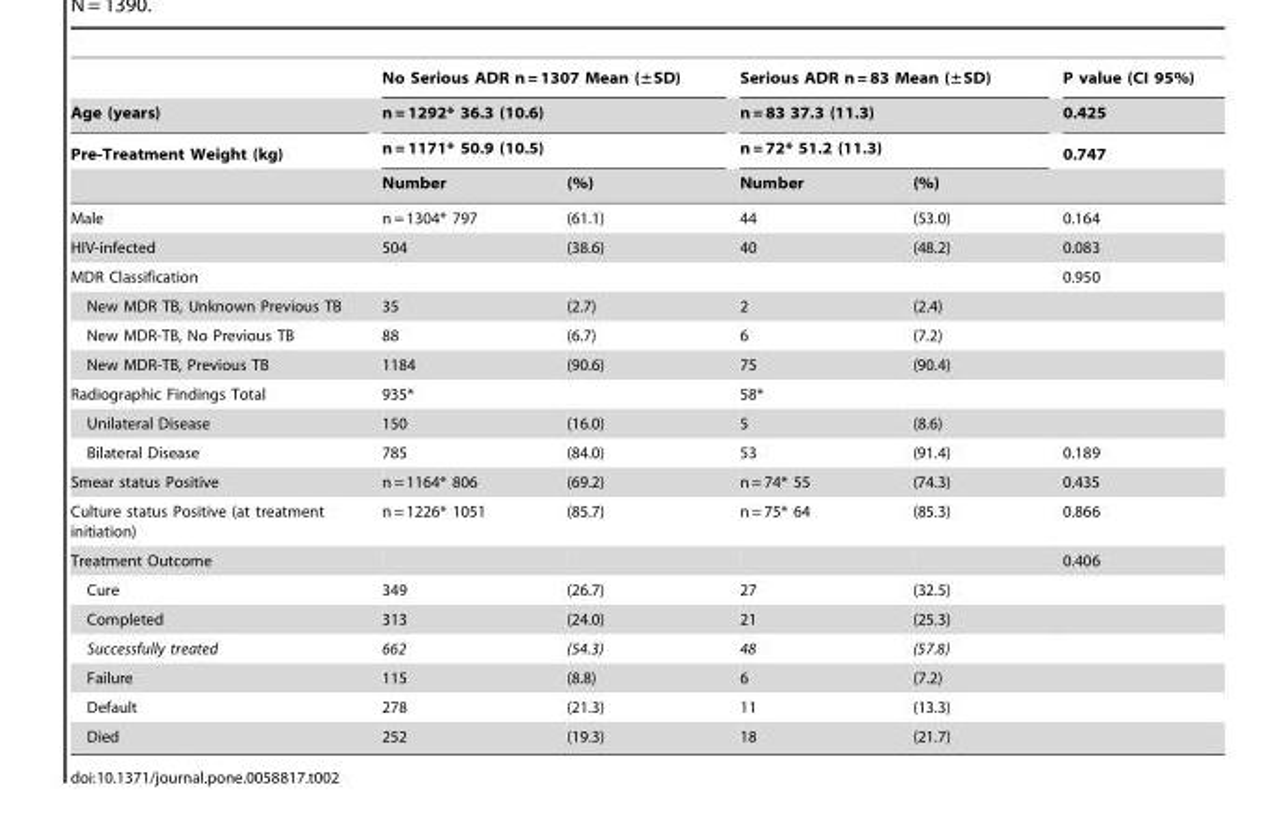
<table><thead><tr><td rowspan="4">Age (years) Pre-Treatment Weight (kg)</td><td rowspan="3" colspan="2">No Serious ADR n = 1307 Mean (±SD) n = 1292* 36.3 (10.6) n = 1171* 50.9 (10.5)</td><td rowspan="3" colspan="2">Serious ADR n = 83 Mean (±SD) n = 83 37.3 (11.3) n = 72* 51.2 (11.3)</td><td rowspan="4">P value (CI 95%) 0.425 0.747</td></tr><tr></tr><tr></tr><tr><td>Number</td><td>(%)</td><td>Number</td><td>(%)</td></tr></thead><tbody><tr><td>Male</td><td>n = 1304* 797</td><td>(61.1)</td><td>44</td><td>(53.0)</td><td>0.164</td></tr><tr><td>HIV-infected</td><td>504</td><td>(38.6)</td><td>40</td><td>(48.2)</td><td>0.083</td></tr><tr><td>MDR Classification</td><td></td><td></td><td></td><td></td><td>0.950</td></tr><tr><td>New MDR TB, Unknown Previous TB</td><td>35</td><td>(2.7)</td><td>2</td><td>(2.4)</td><td></td></tr><tr><td>New MDR-TB, No Previous TB</td><td>88</td><td>(6.7)</td><td>6</td><td>(7.2)</td><td></td></tr><tr><td>New MDR-TB, Previous TB</td><td>1184</td><td>(90.6)</td><td>75</td><td>(90.4)</td><td></td></tr><tr><td>Radiographic Findings Total</td><td>935*</td><td></td><td>58*</td><td></td><td></td></tr><tr><td>Unilateral Disease</td><td>150</td><td>(16.0)</td><td>5</td><td>(8.6)</td><td></td></tr><tr><td>Bilateral Disease</td><td>785</td><td>(84.0)</td><td>53</td><td>(91.4)</td><td>0.189</td></tr><tr><td>Smear status Positive</td><td>n = 1164* 806</td><td>(69.2)</td><td>n = 74* 55</td><td>(74.3)</td><td>0.435</td></tr><tr><td>Culture status Positive (at treatment initiation)</td><td>n = 1226* 1051</td><td>(85.7)</td><td>n = 75* 64</td><td>(85.3)</td><td>0.866</td></tr><tr><td>Treatment Outcome</td><td></td><td></td><td></td><td></td><td>0.406</td></tr><tr><td>Cure</td><td>349</td><td>(26.7)</td><td>27</td><td>(32.5)</td><td></td></tr><tr><td>Completed</td><td>313</td><td>(24.0)</td><td>21</td><td>(25.3)</td><td></td></tr><tr><td>Successfully treated</td><td>662</td><td>(54.3)</td><td>48</td><td>(57.8)</td><td></td></tr><tr><td>Failure</td><td>115</td><td>(8.8)</td><td>6</td><td>(7.2)</td><td></td></tr><tr><td>Default</td><td>278</td><td>(21.3)</td><td>11</td><td>(13.3)</td><td></td></tr><tr><td>Died</td><td>252</td><td>(19.3)</td><td>18</td><td>(21.7)</td><td></td></tr></tbody></table>